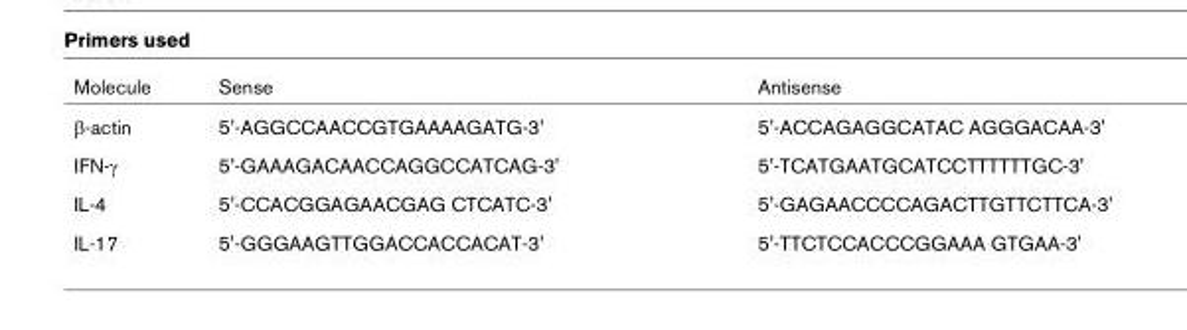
<table><thead><tr><td>Molecule</td><td>Sense</td><td>Antisense</td></tr></thead><tbody><tr><td>β-actin</td><td>5&#x27;-AGGCCAACCGTGAAAAGATG-3&#x27;</td><td>5&#x27;-ACCAGAGGCATAC AGGGACAA-3&#x27;</td></tr><tr><td>IFN-γ</td><td>5&#x27;-GAAAGACAACCAGGCCATCAG-3&#x27;</td><td>5&#x27;-TCATGAATGCATCCTTTTTTGC-3&#x27;</td></tr><tr><td>IL-4</td><td>5&#x27;-CCACGGAGAACGAG CTCATC-3&#x27;</td><td>5&#x27;-GAGAACCCCAGACTTGTTCTTCA-3&#x27;</td></tr><tr><td>IL-17</td><td>5&#x27;-GGGAAGTTGGACCACCACAT-3&#x27;</td><td>5&#x27;-TTCTCCACCCGGAAA GTGAA-3&#x27;</td></tr></tbody></table>